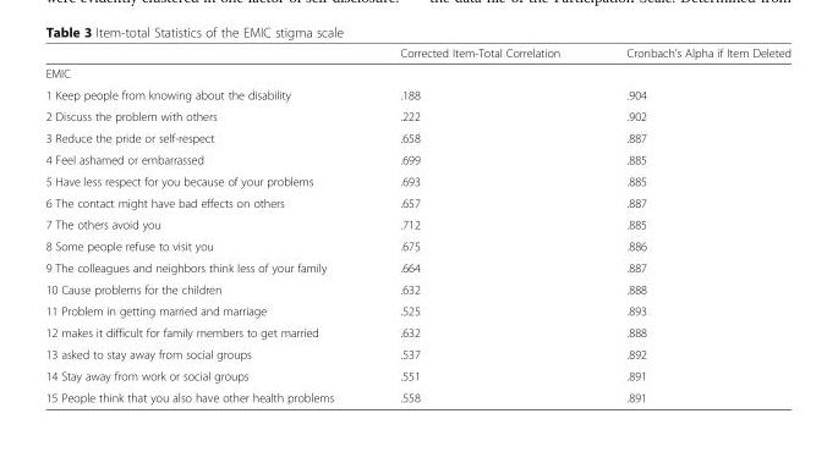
<table><thead><tr><td></td><td>Corrected Item-Total Correlation</td><td>Cronbach’s Alpha if Item Deleted</td></tr></thead><tbody><tr><td colspan="3">EMIC</td></tr><tr><td>1 Keep people from knowing about the disability</td><td>.188</td><td>.904</td></tr><tr><td>2 Discuss the problem with others</td><td>.222</td><td>.902</td></tr><tr><td>3 Reduce the pride or self-respect</td><td>.658</td><td>.887</td></tr><tr><td>4 Feel ashamed or embarrassed</td><td>.699</td><td>.885</td></tr><tr><td>5 Have less respect for you because of your problems</td><td>.693</td><td>.885</td></tr><tr><td>6 The contact might have bad effects on others</td><td>.657</td><td>.887</td></tr><tr><td>7 The others avoid you</td><td>.712</td><td>.885</td></tr><tr><td>8 Some people refuse to visit you</td><td>.675</td><td>.886</td></tr><tr><td>9 The colleagues and neighbors think less of your family</td><td>.664</td><td>.887</td></tr><tr><td>10 Cause problems for the children</td><td>.632</td><td>.888</td></tr><tr><td>11 Problem in getting married and marriage</td><td>.525</td><td>.893</td></tr><tr><td>12 makes it difficult for family members to get married</td><td>.632</td><td>.888</td></tr><tr><td>13 asked to stay away from social groups</td><td>.537</td><td>.892</td></tr><tr><td>14 Stay away from work or social groups</td><td>.551</td><td>.891</td></tr><tr><td>15 People think that you also have other health problems</td><td>.558</td><td>.891</td></tr></tbody></table>